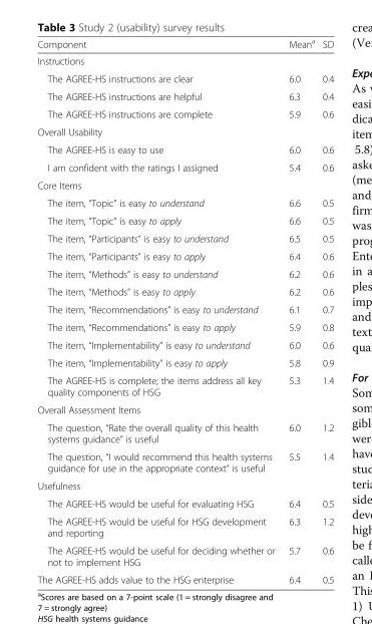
<table><thead><tr><td>Component</td><td>Mean<sup>a</sup></td><td>SD</td></tr></thead><tbody><tr><td colspan="3">Instructions</td></tr><tr><td>The AGREE-HS instructions are clear</td><td>6.0</td><td>0.4</td></tr><tr><td>The AGREE-HS instructions are helpful</td><td>6.3</td><td>0.4</td></tr><tr><td>The AGREE-HS instructions are complete</td><td>5.9</td><td>0.6</td></tr><tr><td colspan="3">Overall Usability</td></tr><tr><td>The AGREE-HS is easy to use</td><td>6.0</td><td>0.6</td></tr><tr><td>I am confident with the ratings I assigned</td><td>5.4</td><td>0.6</td></tr><tr><td colspan="3">Core Items</td></tr><tr><td>The item, “Topic” is easy to understand</td><td>6.6</td><td>0.5</td></tr><tr><td>The item, “Topic” is easy to apply</td><td>6.6</td><td>0.5</td></tr><tr><td>The item, “Participants” is easy to understand</td><td>6.5</td><td>0.5</td></tr><tr><td>The item, “Participants” is easy to apply</td><td>6.4</td><td>0.6</td></tr><tr><td>The item, “Methods” is easy to understand</td><td>6.2</td><td>0.6</td></tr><tr><td>The item, “Methods” is easy to apply</td><td>6.2</td><td>0.6</td></tr><tr><td>The item, “Recommendations” is easy to understand</td><td>6.1</td><td>0.7</td></tr><tr><td>The item, “Recommendations” is easy to apply</td><td>5.9</td><td>0.8</td></tr><tr><td>The item, “Implementability” is easy to understand</td><td>6.0</td><td>0.6</td></tr><tr><td>The item, “Implementability” is easy to apply</td><td>5.8</td><td>0.9</td></tr><tr><td>The AGREE-HS is complete; the items address all key quality components of HSG</td><td>5.3</td><td>1.4</td></tr><tr><td colspan="3">Overall Assessment Items</td></tr><tr><td>The question, “Rate the overall quality of this health systems guidance” is useful</td><td>6.0</td><td>1.2</td></tr><tr><td>The question, “I would recommend this health systems guidance for use in the appropriate context” is useful</td><td>5.5</td><td>1.4</td></tr><tr><td colspan="3">Usefulness</td></tr><tr><td>The AGREE-HS would be useful for evaluating HSG</td><td>6.4</td><td>0.5</td></tr><tr><td>The AGREE-HS would be useful for HSG development and reporting</td><td>6.3</td><td>1.2</td></tr><tr><td>The AGREE-HS would be useful for deciding whether or not to implement HSG</td><td>5.7</td><td>0.6</td></tr><tr><td>The AGREE-HS adds value to the HSG enterprise</td><td>6.4</td><td>0.5</td></tr></tbody></table>